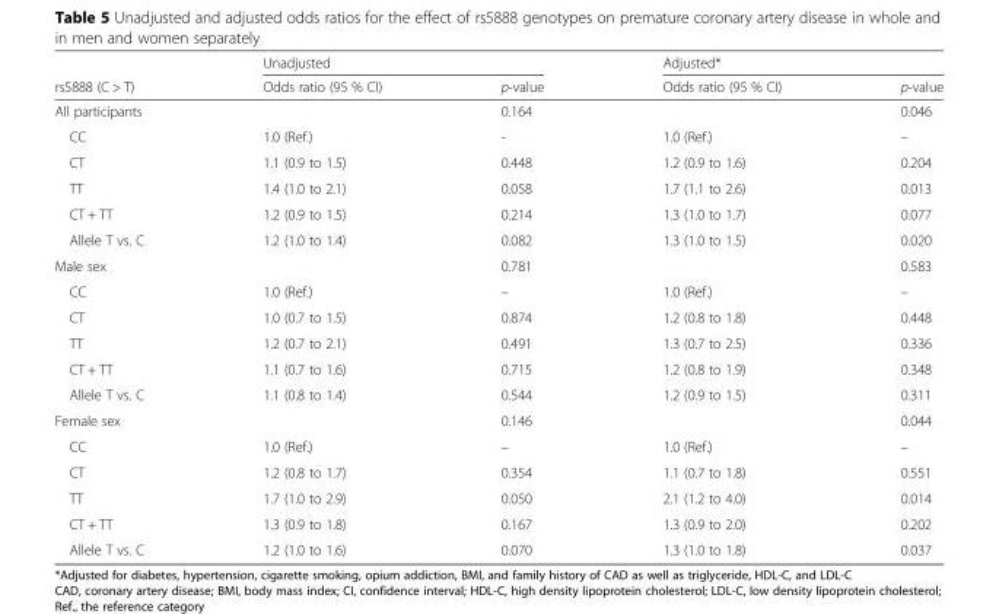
<table><thead><tr><td rowspan="2">rs5888 (C &gt; T)</td><td colspan="2">Unadjusted</td><td colspan="2">Adjusted*</td></tr><tr><td>Odds ratio (95 % CI)</td><td>p-value</td><td>Odds ratio (95 % CI)</td><td>p-value</td></tr></thead><tbody><tr><td>All participants</td><td></td><td>0.164</td><td></td><td>0.046</td></tr><tr><td>CC</td><td>1.0 (Ref.)</td><td>-</td><td>1.0 (Ref.)</td><td>–</td></tr><tr><td>CT</td><td>1.1 (0.9 to 1.5)</td><td>0.448</td><td>1.2 (0.9 to 1.6)</td><td>0.204</td></tr><tr><td>TT</td><td>1.4 (1.0 to 2.1)</td><td>0.058</td><td>1.7 (1.1 to 2.6)</td><td>0.013</td></tr><tr><td>CT + TT</td><td>1.2 (0.9 to 1.5)</td><td>0.214</td><td>1.3 (1.0 to 1.7)</td><td>0.077</td></tr><tr><td>Allele T vs. C</td><td>1.2 (1.0 to 1.4)</td><td>0.082</td><td>1.3 (1.0 to 1.5)</td><td>0.020</td></tr><tr><td>Male sex</td><td></td><td>0.781</td><td></td><td>0.583</td></tr><tr><td>CC</td><td>1.0 (Ref.)</td><td>–</td><td>1.0 (Ref.)</td><td>–</td></tr><tr><td>CT</td><td>1.0 (0.7 to 1.5)</td><td>0.874</td><td>1.2 (0.8 to 1.8)</td><td>0.448</td></tr><tr><td>TT</td><td>1.2 (0.7 to 2.1)</td><td>0.491</td><td>1.3 (0.7 to 2.5)</td><td>0.336</td></tr><tr><td>CT + TT</td><td>1.1 (0.7 to 1.6)</td><td>0.715</td><td>1.2 (0.8 to 1.9)</td><td>0.348</td></tr><tr><td>Allele T vs. C</td><td>1.1 (0.8 to 1.4)</td><td>0.544</td><td>1.2 (0.9 to 1.5)</td><td>0.311</td></tr><tr><td>Female sex</td><td></td><td>0.146</td><td></td><td>0.044</td></tr><tr><td>CC</td><td>1.0 (Ref.)</td><td>–</td><td>1.0 (Ref.)</td><td>–</td></tr><tr><td>CT</td><td>1.2 (0.8 to 1.7)</td><td>0.354</td><td>1.1 (0.7 to 1.8)</td><td>0.551</td></tr><tr><td>TT</td><td>1.7 (1.0 to 2.9)</td><td>0.050</td><td>2.1 (1.2 to 4.0)</td><td>0.014</td></tr><tr><td>CT + TT</td><td>1.3 (0.9 to 1.8)</td><td>0.167</td><td>1.3 (0.9 to 2.0)</td><td>0.202</td></tr><tr><td>Allele T vs. C</td><td>1.2 (1.0 to 1.6)</td><td>0.070</td><td>1.3 (1.0 to 1.8)</td><td>0.037</td></tr></tbody></table>